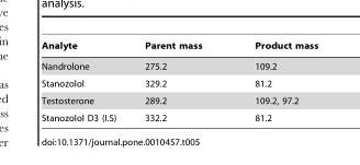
<table><thead><tr><td>Analyte</td><td>Parent mass</td><td>Product mass</td></tr></thead><tbody><tr><td>Nandrolone</td><td>275.2</td><td>109.2</td></tr><tr><td>Stanozolol</td><td>329.2</td><td>81.2</td></tr><tr><td>Testosterone</td><td>289.2</td><td>109.2, 97.2</td></tr><tr><td>Stanozolol D3 (I.S)</td><td>332.2</td><td>81.2</td></tr></tbody></table>